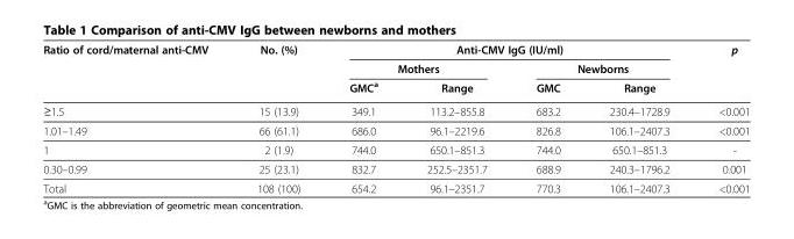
<table><thead><tr><td rowspan="3">Ratio of cord/maternal anti-CMV</td><td rowspan="3">No. (%)</td><td colspan="4">Anti-CMV IgG (IU/ml)</td><td rowspan="3">p</td></tr><tr><td colspan="2">Mothers</td><td colspan="2">Newborns</td></tr><tr><td>GMC<sup>a</sup></td><td>Range</td><td>GMC</td><td>Range</td></tr></thead><tbody><tr><td>≥1.5</td><td>15 (13.9)</td><td>349.1</td><td>113.2–855.8</td><td>683.2</td><td>230.4–1728.9</td><td>&lt;0.001</td></tr><tr><td>1.01–1.49</td><td>66 (61.1)</td><td>686.0</td><td>96.1–2219.6</td><td>826.8</td><td>106.1–2407.3</td><td>&lt;0.001</td></tr><tr><td>1</td><td>2 (1.9)</td><td>744.0</td><td>650.1–851.3</td><td>744.0</td><td>650.1–851.3</td><td>-</td></tr><tr><td>0.30–0.99</td><td>25 (23.1)</td><td>832.7</td><td>252.5–2351.7</td><td>688.9</td><td>240.3–1796.2</td><td>0.001</td></tr><tr><td>Total</td><td>108 (100)</td><td>654.2</td><td>96.1–2351.7</td><td>770.3</td><td>106.1–2407.3</td><td>&lt;0.001</td></tr></tbody></table>